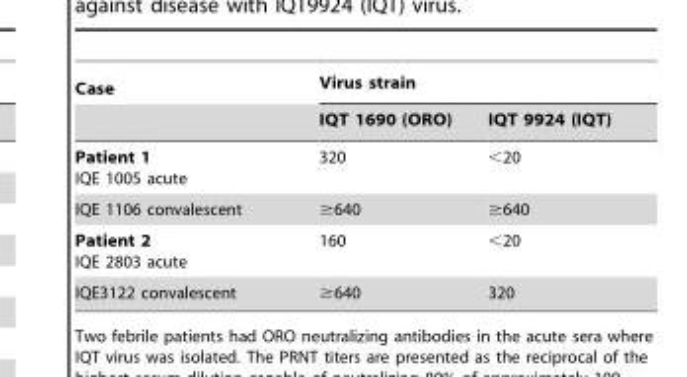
<table><thead><tr><td rowspan="2">Case</td><td colspan="2">Virus strain</td></tr><tr><td>IQT 1690 (ORO)</td><td>IQT 9924 (IQT)</td></tr></thead><tbody><tr><td>Patient 1 IQE 1005 acute</td><td>320</td><td>&lt;20</td></tr><tr><td>IQE 1106 convalescent</td><td>≥640</td><td>≥640</td></tr><tr><td>Patient 2 IQE 2803 acute</td><td>160</td><td>&lt;20</td></tr><tr><td>IQE3122 convalescent</td><td>≥640</td><td>320</td></tr></tbody></table>